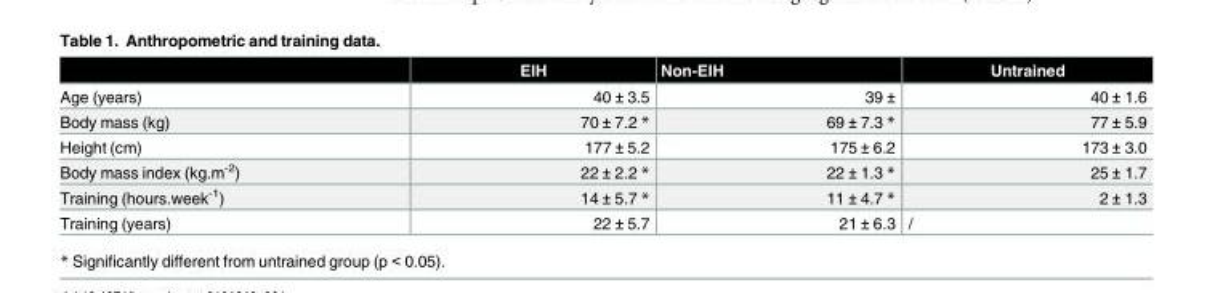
<table><thead><tr><td></td><td>EIH</td><td>Non-EIH</td><td>Untrained</td></tr></thead><tbody><tr><td>Age (years)</td><td>40 ± 3.5</td><td>39 ±</td><td>40 ± 1.6</td></tr><tr><td>Body mass (kg)</td><td>70 ± 7.2 *</td><td>69 ± 7.3 *</td><td>77 ± 5.9</td></tr><tr><td>Height (cm)</td><td>177 ± 5.2</td><td>175 ± 6.2</td><td>173 ± 3.0</td></tr><tr><td>Body mass index (kg.m<sup>-2</sup>)</td><td>22 ± 2.2 *</td><td>22 ± 1.3 *</td><td>25 ± 1.7</td></tr><tr><td>Training (hours.week<sup>-1</sup>)</td><td>14 ± 5.7 *</td><td>11 ± 4.7 *</td><td>2 ± 1.3</td></tr><tr><td>Training (years)</td><td>22 ± 5.7</td><td>21 ± 6.3</td><td>/</td></tr></tbody></table>